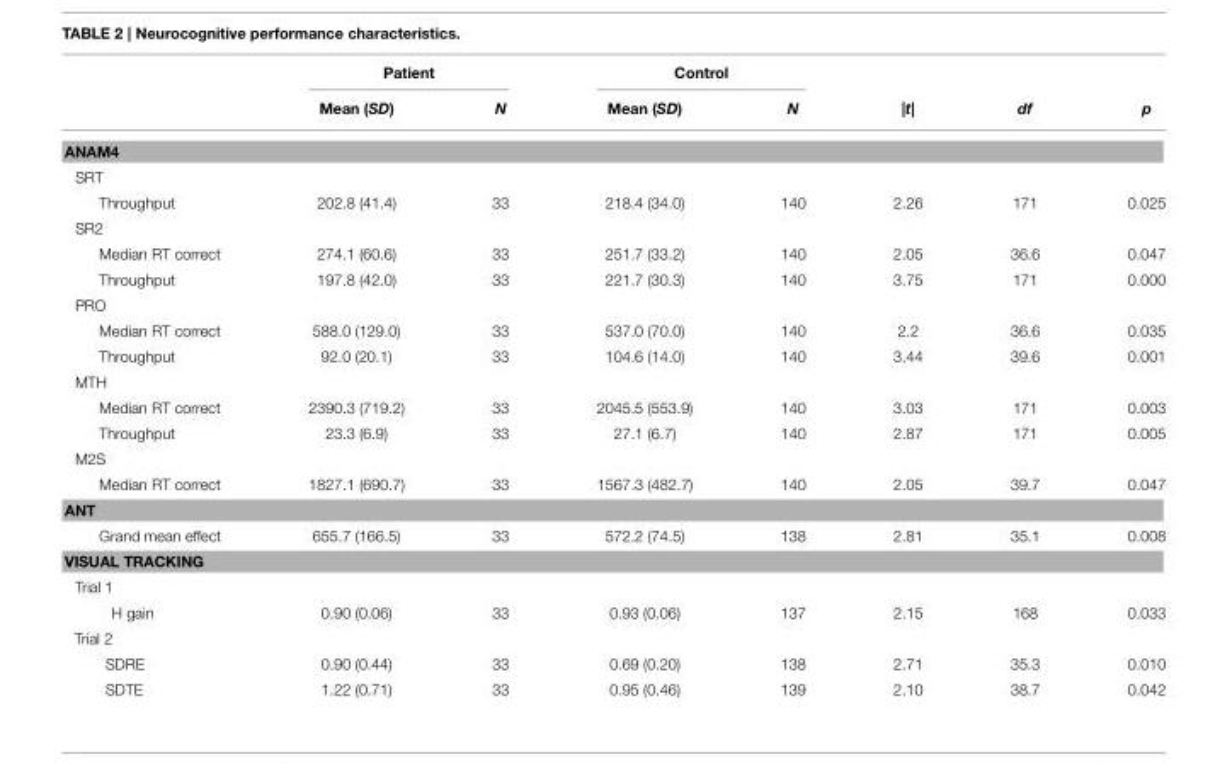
<table><thead><tr><td rowspan="2"></td><td colspan="2">Patient</td><td colspan="2">Control</td><td rowspan="2">|t|</td><td rowspan="2">df</td><td rowspan="2">p</td></tr><tr><td>Mean (SD)</td><td>N</td><td>Mean (SD)</td><td>N</td></tr></thead><tbody><tr><td colspan="8">ANAM4</td></tr><tr><td colspan="8">SRT</td></tr><tr><td>Throughput</td><td>202.8 (41.4)</td><td>33</td><td>218.4 (34.0)</td><td>140</td><td>2.26</td><td>171</td><td>0.025</td></tr><tr><td colspan="8">SR2</td></tr><tr><td>Median RT correct</td><td>274.1 (60.6)</td><td>33</td><td>251.7 (33.2)</td><td>140</td><td>2.05</td><td>36.6</td><td>0.047</td></tr><tr><td>Throughput</td><td>197.8 (42.0)</td><td>33</td><td>221.7 (30.3)</td><td>140</td><td>3.75</td><td>171</td><td>0.000</td></tr><tr><td colspan="8">PRO</td></tr><tr><td>Median RT correct</td><td>588.0 (129.0)</td><td>33</td><td>537.0 (70.0)</td><td>140</td><td>2.2</td><td>36.6</td><td>0.035</td></tr><tr><td>Throughput</td><td>92.0 (20.1)</td><td>33</td><td>104.6 (14.0)</td><td>140</td><td>3.44</td><td>39.6</td><td>0.001</td></tr><tr><td colspan="8">MTH</td></tr><tr><td>Median RT correct</td><td>2390.3 (719.2)</td><td>33</td><td>2045.5 (553.9)</td><td>140</td><td>3.03</td><td>171</td><td>0.003</td></tr><tr><td>Throughput</td><td>23.3 (6.9)</td><td>33</td><td>27.1 (6.7)</td><td>140</td><td>2.87</td><td>171</td><td>0.005</td></tr><tr><td colspan="8">M2S</td></tr><tr><td>Median RT correct</td><td>1827.1 (690.7)</td><td>33</td><td>1567.3 (482.7)</td><td>140</td><td>2.05</td><td>39.7</td><td>0.047</td></tr><tr><td colspan="8">ANT</td></tr><tr><td>Grand mean effect</td><td>655.7 (166.5)</td><td>33</td><td>572.2 (74.5)</td><td>138</td><td>2.81</td><td>35.1</td><td>0.008</td></tr><tr><td colspan="8">VISUAL TRACKING</td></tr><tr><td colspan="8">Trial 1</td></tr><tr><td>H gain</td><td>0.90 (0.06)</td><td>33</td><td>0.93 (0.06)</td><td>137</td><td>2.15</td><td>168</td><td>0.033</td></tr><tr><td colspan="8">Trial 2</td></tr><tr><td>SDRE</td><td>0.90 (0.44)</td><td>33</td><td>0.69 (0.20)</td><td>138</td><td>2.71</td><td>35.3</td><td>0.010</td></tr><tr><td>SDTE</td><td>1.22 (0.71)</td><td>33</td><td>0.95 (0.46)</td><td>139</td><td>2.10</td><td>38.7</td><td>0.042</td></tr></tbody></table>